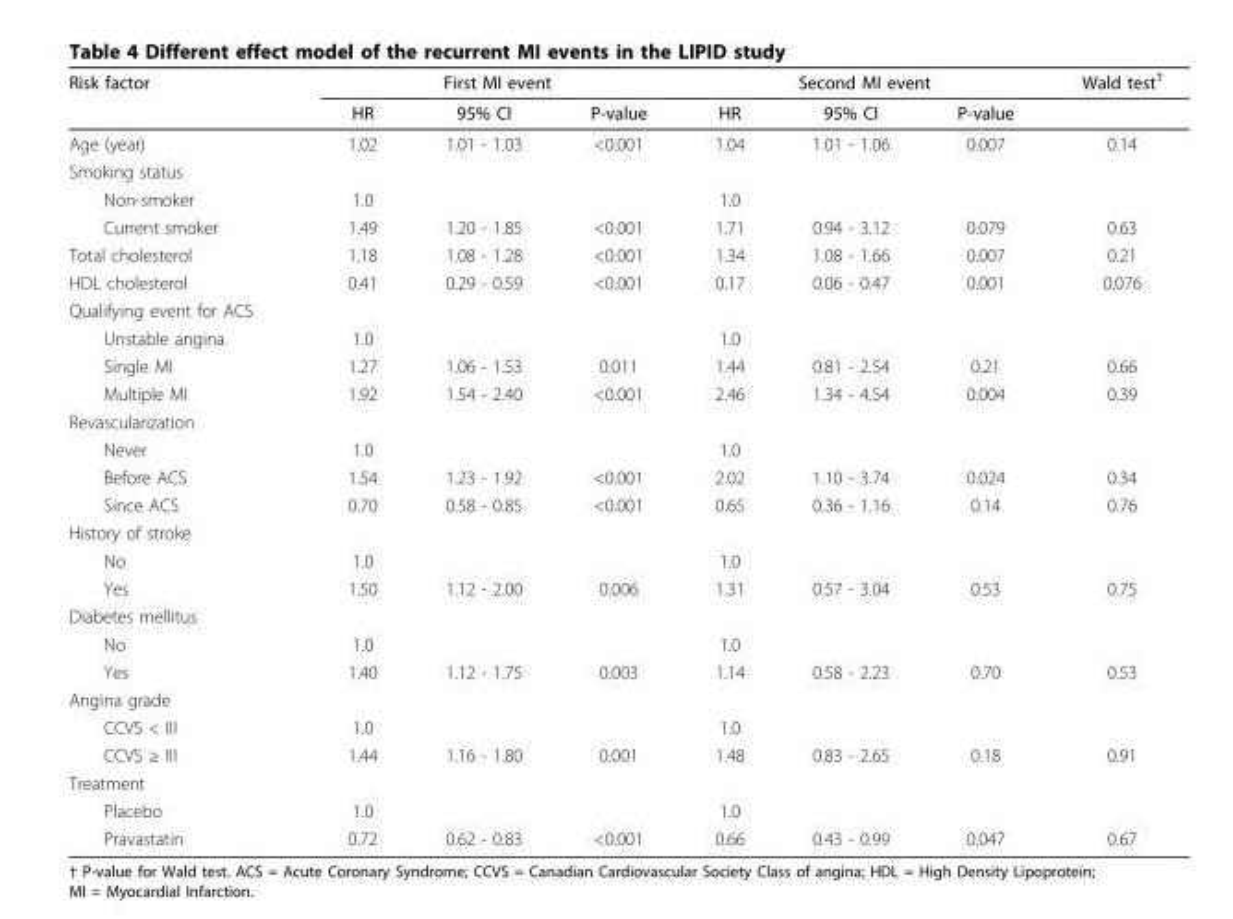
<table><thead><tr><td rowspan="2">Risk factor</td><td colspan="3">First MI event</td><td colspan="3">Second MI event</td><td rowspan="2">Wald test<sup>†</sup></td></tr><tr><td>HR</td><td>95% CI</td><td>P-value</td><td>HR</td><td>95% CI</td><td>P-value</td></tr></thead><tbody><tr><td>Age (year)</td><td>1.02</td><td>1.01 - 1.03</td><td>&lt;0.001</td><td>1.04</td><td>1.01 - 1.06</td><td>0.007</td><td>0.14</td></tr><tr><td colspan="8">Smoking status</td></tr><tr><td>Non-smoker</td><td>1.0</td><td></td><td></td><td>1.0</td><td></td><td></td><td></td></tr><tr><td>Current smoker</td><td>1.49</td><td>1.20 - 1.85</td><td>&lt;0.001</td><td>1.71</td><td>0.94 - 3.12</td><td>0.079</td><td>0.63</td></tr><tr><td>Total cholesterol</td><td>1.18</td><td>1.08 - 1.28</td><td>&lt;0.001</td><td>1.34</td><td>1.08 - 1.66</td><td>0.007</td><td>0.21</td></tr><tr><td>HDL cholesterol</td><td>0.41</td><td>0.29 - 0.59</td><td>&lt;0.001</td><td>0.17</td><td>0.06 - 0.47</td><td>0.001</td><td>0.076</td></tr><tr><td colspan="8">Qualifying event for ACS</td></tr><tr><td>Unstable angina</td><td>1.0</td><td></td><td></td><td>1.0</td><td></td><td></td><td></td></tr><tr><td>Single MI</td><td>1.27</td><td>1.06 - 1.53</td><td>0.011</td><td>1.44</td><td>0.81 - 2.54</td><td>0.21</td><td>0.66</td></tr><tr><td>Multiple MI</td><td>1.92</td><td>1.54 - 2.40</td><td>&lt;0.001</td><td>2.46</td><td>1.34 - 4.54</td><td>0.004</td><td>0.39</td></tr><tr><td colspan="8">Revascularization</td></tr><tr><td>Never</td><td>1.0</td><td></td><td></td><td>1.0</td><td></td><td></td><td></td></tr><tr><td>Before ACS</td><td>1.54</td><td>1.23 - 1.92</td><td>&lt;0.001</td><td>2.02</td><td>1.10 - 3.74</td><td>0.024</td><td>0.34</td></tr><tr><td>Since ACS</td><td>0.70</td><td>0.58 - 0.85</td><td>&lt;0.001</td><td>0.65</td><td>0.36 - 1.16</td><td>0.14</td><td>0.76</td></tr><tr><td colspan="8">History of stroke</td></tr><tr><td>No</td><td>1.0</td><td></td><td></td><td>1.0</td><td></td><td></td><td></td></tr><tr><td>Yes</td><td>1.50</td><td>1.12 - 2.00</td><td>0.006</td><td>1.31</td><td>0.57 - 3.04</td><td>0.53</td><td>0.75</td></tr><tr><td colspan="8">Diabetes mellitus</td></tr><tr><td>No</td><td>1.0</td><td></td><td></td><td>1.0</td><td></td><td></td><td></td></tr><tr><td>Yes</td><td>1.40</td><td>1.12 - 1.75</td><td>0.003</td><td>1.14</td><td>0.58 - 2.23</td><td>0.70</td><td>0.53</td></tr><tr><td colspan="8">Angina grade</td></tr><tr><td>CCVS &lt; III</td><td>1.0</td><td></td><td></td><td>1.0</td><td></td><td></td><td></td></tr><tr><td>CCVS ≥ III</td><td>1.44</td><td>1.16 - 1.80</td><td>0.001</td><td>1.48</td><td>0.83 - 2.65</td><td>0.18</td><td>0.91</td></tr><tr><td colspan="8">Treatment</td></tr><tr><td>Placebo</td><td>1.0</td><td></td><td></td><td>1.0</td><td></td><td></td><td></td></tr><tr><td>Pravastatin</td><td>0.72</td><td>0.62 - 0.83</td><td>&lt;0.001</td><td>0.66</td><td>0.43 - 0.99</td><td>0.047</td><td>0.67</td></tr></tbody></table>